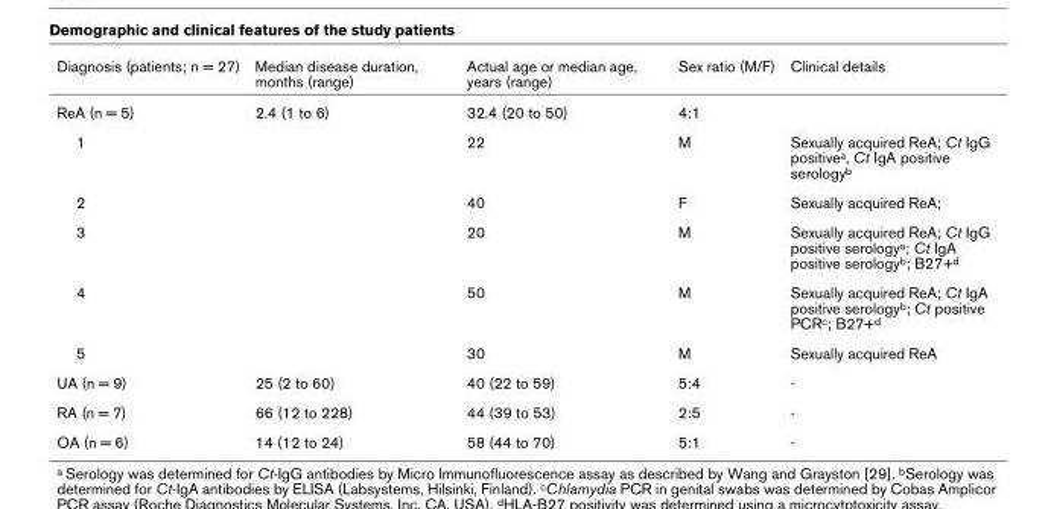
<table><thead><tr><td>Diagnosis (patients; n = 27)</td><td>Median disease duration, months (range)</td><td>Actual age or median age, years (range)</td><td>Sex ratio (M/F)</td><td>Clinical details</td></tr></thead><tbody><tr><td>ReA (n = 5)</td><td>2.4 (1 to 6)</td><td>32.4 (20 to 50)</td><td>4:1</td><td></td></tr><tr><td>1</td><td></td><td>22</td><td>M</td><td>Sexually acquired ReA; Ct IgG positive<sup>a</sup>, Ct IgA positive serology<sup>b</sup></td></tr><tr><td>2</td><td></td><td>40</td><td>F</td><td>Sexually acquired ReA;</td></tr><tr><td>3</td><td></td><td>20</td><td>M</td><td>Sexually acquired ReA; Ct IgG positive serology<sup>a</sup>; Ct IgA positive serology<sup>b</sup>; B27+<sup>d</sup></td></tr><tr><td>4</td><td></td><td>50</td><td>M</td><td>Sexually acquired ReA; Ct IgA positive serology<sup>b</sup>; Ct positive PCR<sup>c</sup>; B27+<sup>d</sup></td></tr><tr><td>5</td><td></td><td>30</td><td>M</td><td>Sexually acquired ReA</td></tr><tr><td>UA (n = 9)</td><td>25 (2 to 60)</td><td>40 (22 to 59)</td><td>5:4</td><td>-</td></tr><tr><td>RA (n = 7)</td><td>66 (12 to 228)</td><td>44 (39 to 53)</td><td>2:5</td><td>-</td></tr><tr><td>OA (n = 6)</td><td>14 (12 to 24)</td><td>58 (44 to 70)</td><td>5:1</td><td>-</td></tr></tbody></table>